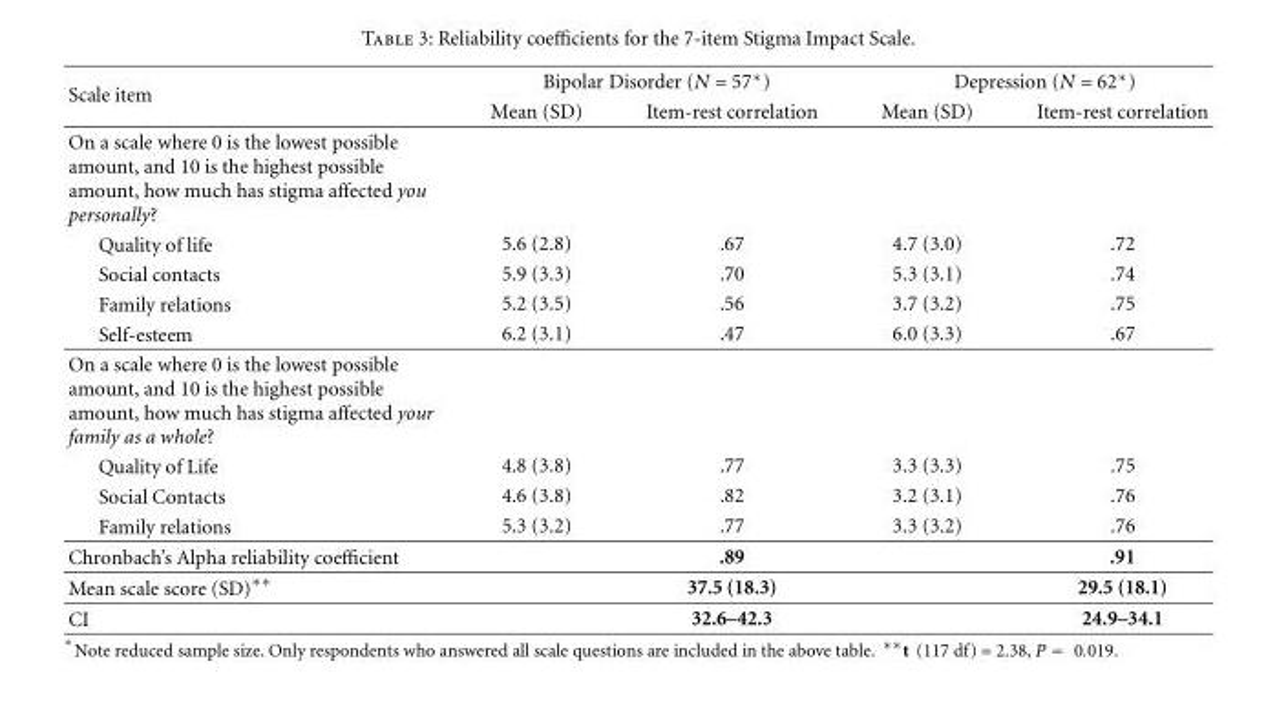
<table><thead><tr><td rowspan="2">Scale item</td><td colspan="2">Bipolar Disorder (N = 57∗)</td><td colspan="2">Depression (N = 62∗)</td></tr><tr><td>Mean (SD)</td><td>Item-rest correlation</td><td>Mean (SD)</td><td>Item-rest correlation</td></tr></thead><tbody><tr><td colspan="5">On a scale where 0 is the lowest possible amount, and 10 is the highest possible amount, how much has stigma affected you personally?</td></tr><tr><td>Quality of life</td><td>5.6 (2.8)</td><td>.67</td><td>4.7 (3.0)</td><td>.72</td></tr><tr><td>Social contacts</td><td>5.9 (3.3)</td><td>.70</td><td>5.3 (3.1)</td><td>.74</td></tr><tr><td>Family relations</td><td>5.2 (3.5)</td><td>.56</td><td>3.7 (3.2)</td><td>.75</td></tr><tr><td>Self-esteem</td><td>6.2 (3.1)</td><td>.47</td><td>6.0 (3.3)</td><td>.67</td></tr><tr><td colspan="5">On a scale where 0 is the lowest possible amount, and 10 is the highest possible amount, how much has stigma affected your family as a whole?</td></tr><tr><td>Quality of Life</td><td>4.8 (3.8)</td><td>.77</td><td>3.3 (3.3)</td><td>.75</td></tr><tr><td>Social Contacts</td><td>4.6 (3.8)</td><td>.82</td><td>3.2 (3.1)</td><td>.76</td></tr><tr><td>Family relations</td><td>5.3 (3.2)</td><td>.77</td><td>3.3 (3.2)</td><td>.76</td></tr><tr><td>Chronbach’s Alpha reliability coefficient</td><td></td><td>.89</td><td></td><td>.91</td></tr><tr><td>Mean scale score (SD)∗∗</td><td></td><td>37.5 (18.3)</td><td></td><td>29.5 (18.1)</td></tr><tr><td>CI</td><td></td><td>32.6–42.3</td><td></td><td>24.9–34.1</td></tr></tbody></table>